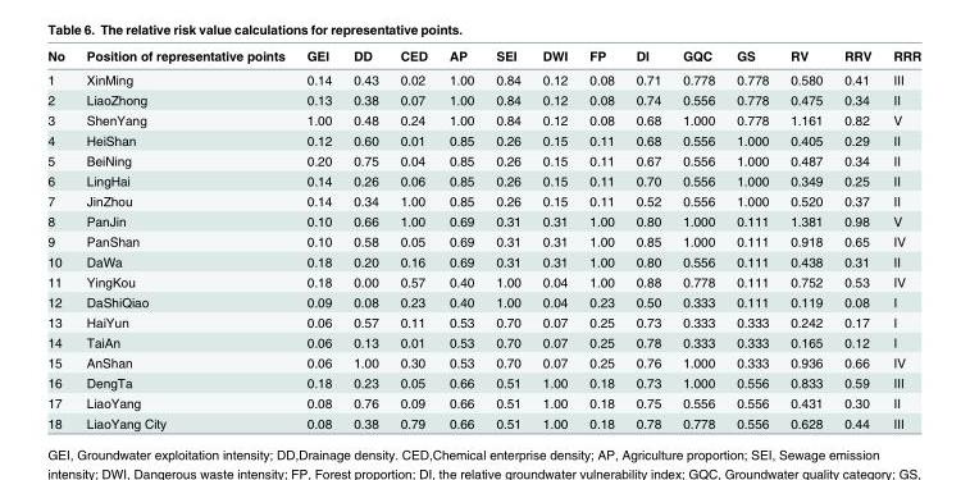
<table><thead><tr><td>No</td><td>Position of representative points</td><td>GEI</td><td>DD</td><td>CED</td><td>AP</td><td>SEI</td><td>DWI</td><td>FP</td><td>DI</td><td>GQC</td><td>GS</td><td>RV</td><td>RRV</td><td>RRR</td></tr></thead><tbody><tr><td>1</td><td>XinMing</td><td>0.14</td><td>0.43</td><td>0.02</td><td>1.00</td><td>0.84</td><td>0.12</td><td>0.08</td><td>0.71</td><td>0.778</td><td>0.778</td><td>0.580</td><td>0.41</td><td>III</td></tr><tr><td>2</td><td>LiaoZhong</td><td>0.13</td><td>0.38</td><td>0.07</td><td>1.00</td><td>0.84</td><td>0.12</td><td>0.08</td><td>0.74</td><td>0.556</td><td>0.778</td><td>0.475</td><td>0.34</td><td>II</td></tr><tr><td>3</td><td>ShenYang</td><td>1.00</td><td>0.48</td><td>0.24</td><td>1.00</td><td>0.84</td><td>0.12</td><td>0.08</td><td>0.68</td><td>1.000</td><td>0.778</td><td>1.161</td><td>0.82</td><td>V</td></tr><tr><td>4</td><td>HeiShan</td><td>0.12</td><td>0.60</td><td>0.01</td><td>0.85</td><td>0.26</td><td>0.15</td><td>0.11</td><td>0.68</td><td>0.556</td><td>1.000</td><td>0.405</td><td>0.29</td><td>II</td></tr><tr><td>5</td><td>BeiNing</td><td>0.20</td><td>0.75</td><td>0.04</td><td>0.85</td><td>0.26</td><td>0.15</td><td>0.11</td><td>0.67</td><td>0.556</td><td>1.000</td><td>0.487</td><td>0.34</td><td>II</td></tr><tr><td>6</td><td>LingHai</td><td>0.14</td><td>0.26</td><td>0.06</td><td>0.85</td><td>0.26</td><td>0.15</td><td>0.11</td><td>0.70</td><td>0.556</td><td>1.000</td><td>0.349</td><td>0.25</td><td>II</td></tr><tr><td>7</td><td>JinZhou</td><td>0.14</td><td>0.34</td><td>1.00</td><td>0.85</td><td>0.26</td><td>0.15</td><td>0.11</td><td>0.52</td><td>0.556</td><td>1.000</td><td>0.520</td><td>0.37</td><td>II</td></tr><tr><td>8</td><td>PanJin</td><td>0.10</td><td>0.66</td><td>1.00</td><td>0.69</td><td>0.31</td><td>0.31</td><td>1.00</td><td>0.80</td><td>1.000</td><td>0.111</td><td>1.381</td><td>0.98</td><td>V</td></tr><tr><td>9</td><td>PanShan</td><td>0.10</td><td>0.58</td><td>0.05</td><td>0.69</td><td>0.31</td><td>0.31</td><td>1.00</td><td>0.85</td><td>1.000</td><td>0.111</td><td>0.918</td><td>0.65</td><td>IV</td></tr><tr><td>10</td><td>DaWa</td><td>0.18</td><td>0.20</td><td>0.16</td><td>0.69</td><td>0.31</td><td>0.31</td><td>1.00</td><td>0.80</td><td>0.556</td><td>0.111</td><td>0.438</td><td>0.31</td><td>II</td></tr><tr><td>11</td><td>YingKou</td><td>0.18</td><td>0.00</td><td>0.57</td><td>0.40</td><td>1.00</td><td>0.04</td><td>1.00</td><td>0.88</td><td>0.778</td><td>0.111</td><td>0.752</td><td>0.53</td><td>IV</td></tr><tr><td>12</td><td>DaShiQiao</td><td>0.09</td><td>0.08</td><td>0.23</td><td>0.40</td><td>1.00</td><td>0.04</td><td>0.23</td><td>0.50</td><td>0.333</td><td>0.111</td><td>0.119</td><td>0.08</td><td>I</td></tr><tr><td>13</td><td>HaiYun</td><td>0.06</td><td>0.57</td><td>0.11</td><td>0.53</td><td>0.70</td><td>0.07</td><td>0.25</td><td>0.73</td><td>0.333</td><td>0.333</td><td>0.242</td><td>0.17</td><td>I</td></tr><tr><td>14</td><td>TaiAn</td><td>0.06</td><td>0.13</td><td>0.01</td><td>0.53</td><td>0.70</td><td>0.07</td><td>0.25</td><td>0.78</td><td>0.333</td><td>0.333</td><td>0.165</td><td>0.12</td><td>I</td></tr><tr><td>15</td><td>AnShan</td><td>0.06</td><td>1.00</td><td>0.30</td><td>0.53</td><td>0.70</td><td>0.07</td><td>0.25</td><td>0.76</td><td>1.000</td><td>0.333</td><td>0.936</td><td>0.66</td><td>IV</td></tr><tr><td>16</td><td>DengTa</td><td>0.18</td><td>0.23</td><td>0.05</td><td>0.66</td><td>0.51</td><td>1.00</td><td>0.18</td><td>0.73</td><td>1.000</td><td>0.556</td><td>0.833</td><td>0.59</td><td>III</td></tr><tr><td>17</td><td>LiaoYang</td><td>0.08</td><td>0.76</td><td>0.09</td><td>0.66</td><td>0.51</td><td>1.00</td><td>0.18</td><td>0.75</td><td>0.556</td><td>0.556</td><td>0.431</td><td>0.30</td><td>II</td></tr><tr><td>18</td><td>LiaoYang City</td><td>0.08</td><td>0.38</td><td>0.79</td><td>0.66</td><td>0.51</td><td>1.00</td><td>0.18</td><td>0.78</td><td>0.778</td><td>0.556</td><td>0.628</td><td>0.44</td><td>III</td></tr></tbody></table>